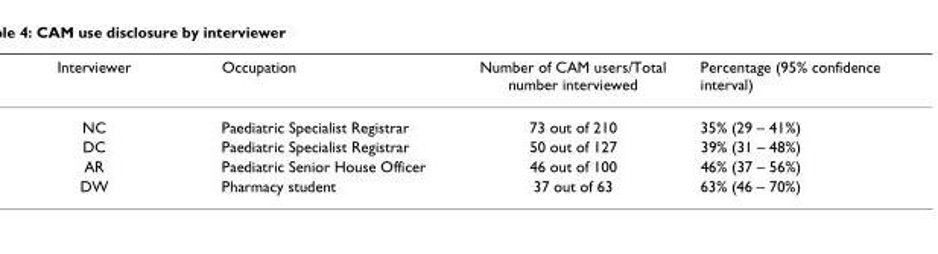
<table><thead><tr><td>Interviewer</td><td>Occupation</td><td>Number of CAM users/Total number interviewed</td><td>Percentage (95% confidence interval)</td></tr></thead><tbody><tr><td>NC</td><td>Paediatric Specialist Registrar</td><td>73 out of 210</td><td>35% (29 – 41%)</td></tr><tr><td>DC</td><td>Paediatric Specialist Registrar</td><td>50 out of 127</td><td>39% (31 – 48%)</td></tr><tr><td>AR</td><td>Paediatric Senior House Officer</td><td>46 out of 100</td><td>46% (37 – 56%)</td></tr><tr><td>DW</td><td>Pharmacy student</td><td>37 out of 63</td><td>63% (46 – 70%)</td></tr></tbody></table>